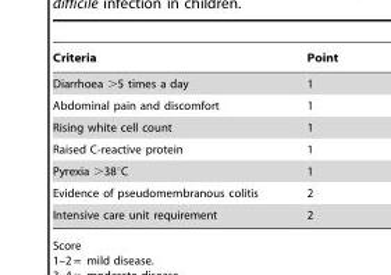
<table><thead><tr><td>Criteria</td><td>Point</td></tr></thead><tbody><tr><td>Diarrhoea &gt;5 times a day</td><td>1</td></tr><tr><td>Abdominal pain and discomfort</td><td>1</td></tr><tr><td>Rising white cell count</td><td>1</td></tr><tr><td>Raised C-reactive protein</td><td>1</td></tr><tr><td>Pyrexia &gt;38°C</td><td>1</td></tr><tr><td>Evidence of pseudomembranous colitis</td><td>2</td></tr><tr><td>Intensive care unit requirement</td><td>2</td></tr></tbody></table>